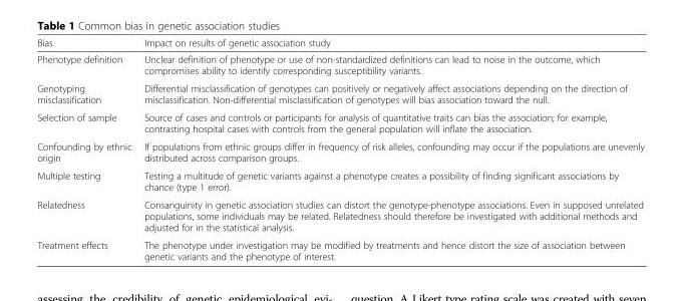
<table><thead><tr><td>Bias</td><td>Impact on results of genetic association study</td></tr></thead><tbody><tr><td>Phenotype definition</td><td>Unclear definition of phenotype or use of non-standardized definitions can lead to noise in the outcome, which compromises ability to identify corresponding susceptibility variants.</td></tr><tr><td>Genotyping misclassification</td><td>Differential misclassification of genotypes can positively or negatively affect associations depending on the direction of misclassification. Non-differential misclassification of genotypes will bias association toward the null.</td></tr><tr><td>Selection of sample</td><td>Source of cases and controls or participants for analysis of quantitative traits can bias the association; for example, contrasting hospital cases with controls from the general population will inflate the association.</td></tr><tr><td>Confounding by ethnic origin</td><td>If populations from ethnic groups differ in frequency of risk alleles, confounding may occur if the populations are unevenly distributed across comparison groups.</td></tr><tr><td>Multiple testing</td><td>Testing a multitude of genetic variants against a phenotype creates a possibility of finding significant associations by chance (type 1 error).</td></tr><tr><td>Relatedness</td><td>Consanguinity in genetic association studies can distort the genotype-phenotype associations. Even in supposed unrelated populations, some individuals may be related. Relatedness should therefore be investigated with additional methods and adjusted for in the statistical analysis.</td></tr><tr><td>Treatment effects</td><td>The phenotype under investigation may be modified by treatments and hence distort the size of association between genetic variants and the phenotype of interest.</td></tr></tbody></table>